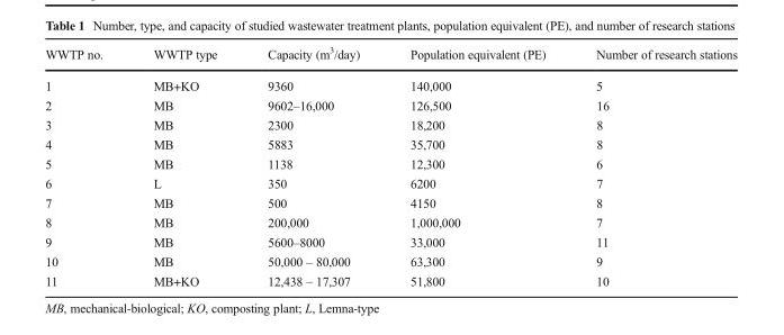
<table><thead><tr><td>WWTP no.</td><td>WWTP type</td><td>Capacity (m<sup>3</sup>/day)</td><td>Population equivalent (PE)</td><td>Number of research stations</td></tr></thead><tbody><tr><td>1</td><td>MB+KO</td><td>9360</td><td>140,000</td><td>5</td></tr><tr><td>2</td><td>MB</td><td>9602–16,000</td><td>126,500</td><td>16</td></tr><tr><td>3</td><td>MB</td><td>2300</td><td>18,200</td><td>8</td></tr><tr><td>4</td><td>MB</td><td>5883</td><td>35,700</td><td>8</td></tr><tr><td>5</td><td>MB</td><td>1138</td><td>12,300</td><td>6</td></tr><tr><td>6</td><td>L</td><td>350</td><td>6200</td><td>7</td></tr><tr><td>7</td><td>MB</td><td>500</td><td>4150</td><td>8</td></tr><tr><td>8</td><td>MB</td><td>200,000</td><td>1,000,000</td><td>7</td></tr><tr><td>9</td><td>MB</td><td>5600–8000</td><td>33,000</td><td>11</td></tr><tr><td>10</td><td>MB</td><td>50,000 – 80,000</td><td>63,300</td><td>9</td></tr><tr><td>11</td><td>MB+KO</td><td>12,438 – 17,307</td><td>51,800</td><td>10</td></tr></tbody></table>